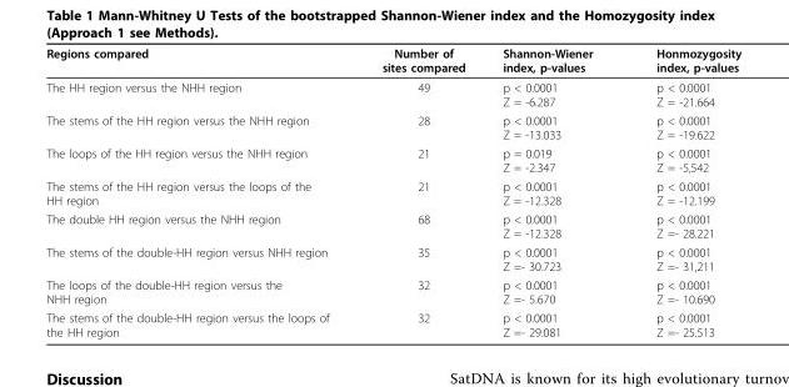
<table><thead><tr><td>Regions compared</td><td>Number of sites compared</td><td>Shannon-Wiener index, p-values</td><td>Honmozygosity index, p-values</td></tr></thead><tbody><tr><td>The HH region versus the NHH region</td><td>49</td><td>p &lt; 0.0001 Z = -6.287</td><td>p &lt; 0.0001 Z = -21.664</td></tr><tr><td>The stems of the HH region versus the NHH region</td><td>28</td><td>p &lt; 0.0001 Z = -13.033</td><td>p &lt; 0.0001 Z = -19.622</td></tr><tr><td>The loops of the HH region versus the NHH region</td><td>21</td><td>p = 0.019 Z = -2.347</td><td>p &lt; 0.0001 Z = -5,542</td></tr><tr><td>The stems of the HH region versus the loops of the HH region</td><td>21</td><td>p &lt; 0.0001 Z = -12.328</td><td>p &lt; 0.0001 Z = -12.199</td></tr><tr><td>The double HH region versus the NHH region</td><td>68</td><td>p &lt; 0.0001 Z = -12.328</td><td>p &lt; 0.0001 Z =- 28.221</td></tr><tr><td>The stems of the double-HH region versus NHH region</td><td>35</td><td>p &lt; 0.0001 Z =- 30.723</td><td>p &lt; 0.0001 Z =- 31,211</td></tr><tr><td>The loops of the double-HH region versus the NHH region</td><td>32</td><td>p &lt; 0.0001 Z =- 5.670</td><td>p &lt; 0.0001 Z =- 10.690</td></tr><tr><td>The stems of the double-HH region versus the loops of the HH region</td><td>32</td><td>p &lt; 0.0001 Z =- 29.081</td><td>p &lt; 0.0001 Z =- 25.513</td></tr></tbody></table>